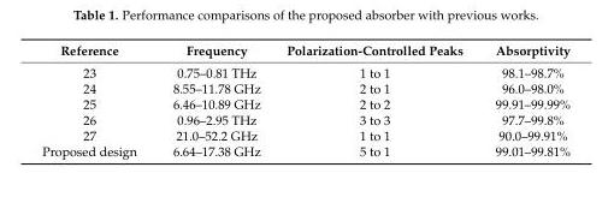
<table><thead><tr><td>Reference</td><td>Frequency</td><td>Polarization-Controlled Peaks</td><td>Absorptivity</td></tr></thead><tbody><tr><td>23</td><td>0.75–0.81 THz</td><td>1 to 1</td><td>98.1–98.7%</td></tr><tr><td>24</td><td>8.55–11.78 GHz</td><td>2 to 1</td><td>96.0–98.0%</td></tr><tr><td>25</td><td>6.46–10.89 GHz</td><td>2 to 2</td><td>99.91–99.99%</td></tr><tr><td>26</td><td>0.96–2.95 THz</td><td>3 to 3</td><td>97.7–99.8%</td></tr><tr><td>27</td><td>21.0–52.2 GHz</td><td>1 to 1</td><td>90.0–99.91%</td></tr><tr><td>Proposed design</td><td>6.64–17.38 GHz</td><td>5 to 1</td><td>99.01–99.81%</td></tr></tbody></table>